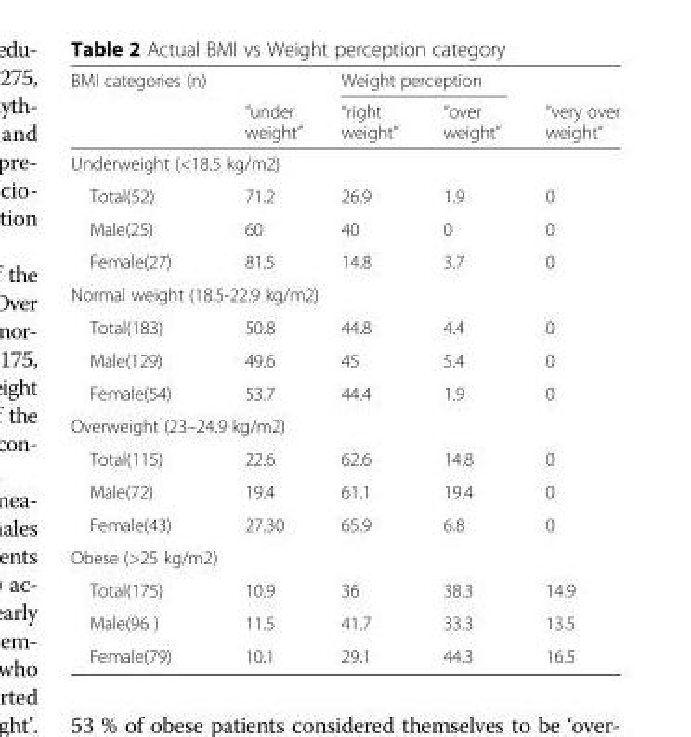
<table><thead><tr><td rowspan="2">BMI categories (n)</td><td rowspan="2">“under weight”</td><td colspan="2">Weight perception</td><td rowspan="2">“very over weight”</td></tr><tr><td>“right weight”</td><td>“over weight”</td></tr></thead><tbody><tr><td colspan="5">Underweight (&lt;18.5 kg/m2)</td></tr><tr><td>Total(52)</td><td>71.2</td><td>26.9</td><td>1.9</td><td>0</td></tr><tr><td>Male(25)</td><td>60</td><td>40</td><td>0</td><td>0</td></tr><tr><td>Female(27)</td><td>81.5</td><td>14.8</td><td>3.7</td><td>0</td></tr><tr><td colspan="5">Normal weight (18.5-22.9 kg/m2)</td></tr><tr><td>Total(183)</td><td>50.8</td><td>44.8</td><td>4.4</td><td>0</td></tr><tr><td>Male(129)</td><td>49.6</td><td>45</td><td>5.4</td><td>0</td></tr><tr><td>Female(54)</td><td>53.7</td><td>44.4</td><td>1.9</td><td>0</td></tr><tr><td colspan="5">Overweight (23–24.9 kg/m2)</td></tr><tr><td>Total(115)</td><td>22.6</td><td>62.6</td><td>14.8</td><td>0</td></tr><tr><td>Male(72)</td><td>19.4</td><td>61.1</td><td>19.4</td><td>0</td></tr><tr><td>Female(43)</td><td>27.30</td><td>65.9</td><td>6.8</td><td>0</td></tr><tr><td colspan="5">Obese (&gt;25 kg/m2)</td></tr><tr><td>Total(175)</td><td>10.9</td><td>36</td><td>38.3</td><td>14.9</td></tr><tr><td>Male(96 )</td><td>11.5</td><td>41.7</td><td>33.3</td><td>13.5</td></tr><tr><td>Female(79)</td><td>10.1</td><td>29.1</td><td>44.3</td><td>16.5</td></tr></tbody></table>